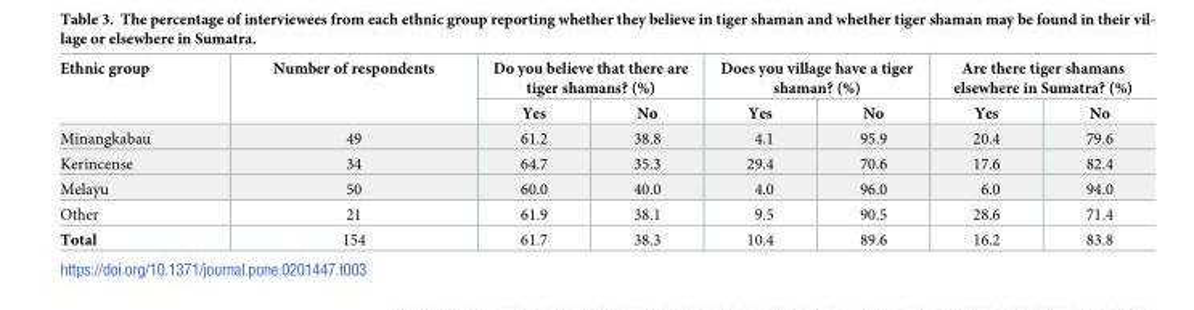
<table><thead><tr><td rowspan="2">Ethnic group</td><td rowspan="2">Number of respondents</td><td colspan="2">Do you believe that there are tiger shamans? (%)</td><td colspan="2">Does you village have a tiger shaman? (%)</td><td colspan="2">Are there tiger shamans elsewhere in Sumatra? (%)</td></tr><tr><td>Yes</td><td>No</td><td>Yes</td><td>No</td><td>Yes</td><td>No</td></tr></thead><tbody><tr><td>Minangkabau</td><td>49</td><td>61.2</td><td>38.8</td><td>4.1</td><td>95.9</td><td>20.4</td><td>79.6</td></tr><tr><td>Kerincense</td><td>34</td><td>64.7</td><td>35.3</td><td>29.4</td><td>70.6</td><td>17.6</td><td>82.4</td></tr><tr><td>Melayu</td><td>50</td><td>60.0</td><td>40.0</td><td>4.0</td><td>96.0</td><td>6.0</td><td>94.0</td></tr><tr><td>Other</td><td>21</td><td>61.9</td><td>38.1</td><td>9.5</td><td>90.5</td><td>28.6</td><td>71.4</td></tr><tr><td>Total</td><td>154</td><td>61.7</td><td>38.3</td><td>10.4</td><td>89.6</td><td>16.2</td><td>83.8</td></tr></tbody></table>